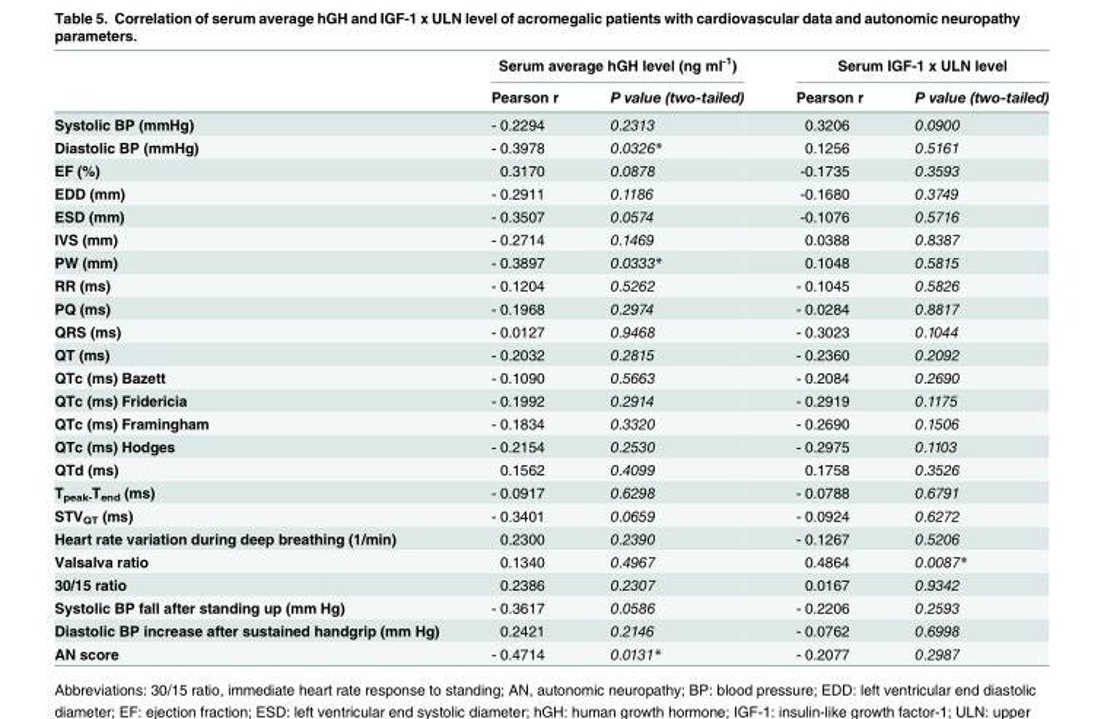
<table><thead><tr><td rowspan="2"></td><td colspan="2">Serum average hGH level (ng ml<sup>-1</sup>)</td><td colspan="2">Serum IGF-1 x ULN level</td></tr><tr><td>Pearson r</td><td>P value (two-tailed)</td><td>Pearson r</td><td>P value (two-tailed)</td></tr></thead><tbody><tr><td>Systolic BP (mmHg)</td><td>- 0.2294</td><td>0.2313</td><td>0.3206</td><td>0.0900</td></tr><tr><td>Diastolic BP (mmHg)</td><td>- 0.3978</td><td>0.0326*</td><td>0.1256</td><td>0.5161</td></tr><tr><td>EF (%)</td><td>0.3170</td><td>0.0878</td><td>-0.1735</td><td>0.3593</td></tr><tr><td>EDD (mm)</td><td>- 0.2911</td><td>0.1186</td><td>-0.1680</td><td>0.3749</td></tr><tr><td>ESD (mm)</td><td>- 0.3507</td><td>0.0574</td><td>-0.1076</td><td>0.5716</td></tr><tr><td>IVS (mm)</td><td>- 0.2714</td><td>0.1469</td><td>0.0388</td><td>0.8387</td></tr><tr><td>PW (mm)</td><td>- 0.3897</td><td>0.0333*</td><td>0.1048</td><td>0.5815</td></tr><tr><td>RR (ms)</td><td>- 0.1204</td><td>0.5262</td><td>- 0.1045</td><td>0.5826</td></tr><tr><td>PQ (ms)</td><td>- 0.1968</td><td>0.2974</td><td>- 0.0284</td><td>0.8817</td></tr><tr><td>QRS (ms)</td><td>- 0.0127</td><td>0.9468</td><td>- 0.3023</td><td>0.1044</td></tr><tr><td>QT (ms)</td><td>- 0.2032</td><td>0.2815</td><td>- 0.2360</td><td>0.2092</td></tr><tr><td>QTc (ms) Bazett</td><td>- 0.1090</td><td>0.5663</td><td>- 0.2084</td><td>0.2690</td></tr><tr><td>QTc (ms) Fridericia</td><td>- 0.1992</td><td>0.2914</td><td>- 0.2919</td><td>0.1175</td></tr><tr><td>QTc (ms) Framingham</td><td>- 0.1834</td><td>0.3320</td><td>- 0.2690</td><td>0.1506</td></tr><tr><td>QTc (ms) Hodges</td><td>- 0.2154</td><td>0.2530</td><td>- 0.2975</td><td>0.1103</td></tr><tr><td>QTd (ms)</td><td>0.1562</td><td>0.4099</td><td>0.1758</td><td>0.3526</td></tr><tr><td>T<sub>peak-</sub>T<sub>end</sub> (ms)</td><td>- 0.0917</td><td>0.6298</td><td>- 0.0788</td><td>0.6791</td></tr><tr><td>STV<sub>QT</sub> (ms)</td><td>- 0.3401</td><td>0.0659</td><td>- 0.0924</td><td>0.6272</td></tr><tr><td>Heart rate variation during deep breathing (1/min)</td><td>0.2300</td><td>0.2390</td><td>- 0.1267</td><td>0.5206</td></tr><tr><td>Valsalva ratio</td><td>0.1340</td><td>0.4967</td><td>0.4864</td><td>0.0087*</td></tr><tr><td>30/15 ratio</td><td>0.2386</td><td>0.2307</td><td>0.0167</td><td>0.9342</td></tr><tr><td>Systolic BP fall after standing up (mm Hg)</td><td>- 0.3617</td><td>0.0586</td><td>- 0.2206</td><td>0.2593</td></tr><tr><td>Diastolic BP increase after sustained handgrip (mm Hg)</td><td>0.2421</td><td>0.2146</td><td>- 0.0762</td><td>0.6998</td></tr><tr><td>AN score</td><td>- 0.4714</td><td>0.0131*</td><td>- 0.2077</td><td>0.2987</td></tr></tbody></table>